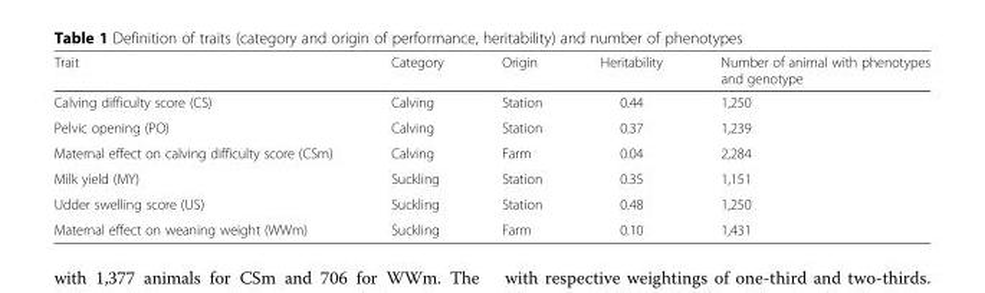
<table><thead><tr><td>Trait</td><td>Category</td><td>Origin</td><td>Heritability</td><td>Number of animal with phenotypes and genotype</td></tr></thead><tbody><tr><td>Calving difficulty score (CS)</td><td>Calving</td><td>Station</td><td>0.44</td><td>1,250</td></tr><tr><td>Pelvic opening (PO)</td><td>Calving</td><td>Station</td><td>0.37</td><td>1,239</td></tr><tr><td>Maternal effect on calving difficulty score (CSm)</td><td>Calving</td><td>Farm</td><td>0.04</td><td>2,284</td></tr><tr><td>Milk yield (MY)</td><td>Suckling</td><td>Station</td><td>0.35</td><td>1,151</td></tr><tr><td>Udder swelling score (US)</td><td>Suckling</td><td>Station</td><td>0.48</td><td>1,250</td></tr><tr><td>Maternal effect on weaning weight (WWm)</td><td>Suckling</td><td>Farm</td><td>0.10</td><td>1,431</td></tr></tbody></table>